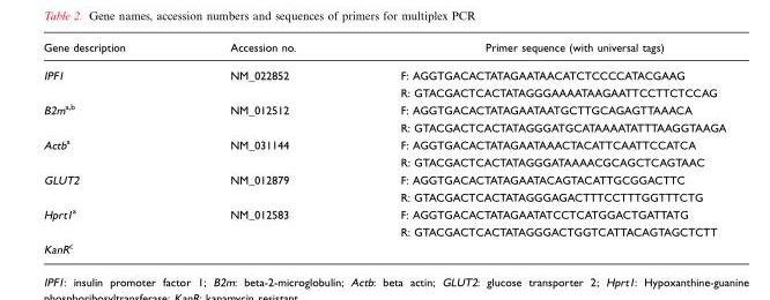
<table><thead><tr><td>Gene description</td><td>Accession no.</td><td>Primer sequence (with universal tags)</td></tr></thead><tbody><tr><td rowspan="2">IPF1</td><td>NM_022852</td><td>F: AGGTGACACTATAGAATAACATCTCCCCATACGAAG</td></tr><tr><td></td><td>R: GTACGACTCACTATAGGGAAAATAAGAATTCCTTCTCCAG</td></tr><tr><td rowspan="2">B2m<sup>a</sup>,<sup>b</sup></td><td>NM_012512</td><td>F: AGGTGACACTATAGAATAATGCTTGCAGAGTTAAACA</td></tr><tr><td></td><td>R: GTACGACTCACTATAGGGATGCATAAAATATTTAAGGTAAGA</td></tr><tr><td rowspan="2">Actb<sup>a</sup></td><td>NM_031144</td><td>F: AGGTGACACTATAGAATAAACTACATTCAATTCCATCA</td></tr><tr><td></td><td>R: GTACGACTCACTATAGGGATAAAACGCAGCTCAGTAAC</td></tr><tr><td rowspan="2">GLUT2</td><td>NM_012879</td><td>F: AGGTGACACTATAGAATACAGTACATTGCGGACTTC</td></tr><tr><td></td><td>R: GTACGACTCACTATAGGGAGACTTTCCTTTGGTTTCTG</td></tr><tr><td rowspan="2">Hprt1<sup>a</sup></td><td>NM_012583</td><td>F: AGGTGACACTATAGAATATCCTCATGGACTGATTATG</td></tr><tr><td></td><td>R: GTACGACTCACTATAGGGACTGGTCATTACAGTAGCTCTT</td></tr><tr><td>KanR<sup>c</sup></td><td></td><td></td></tr></tbody></table>